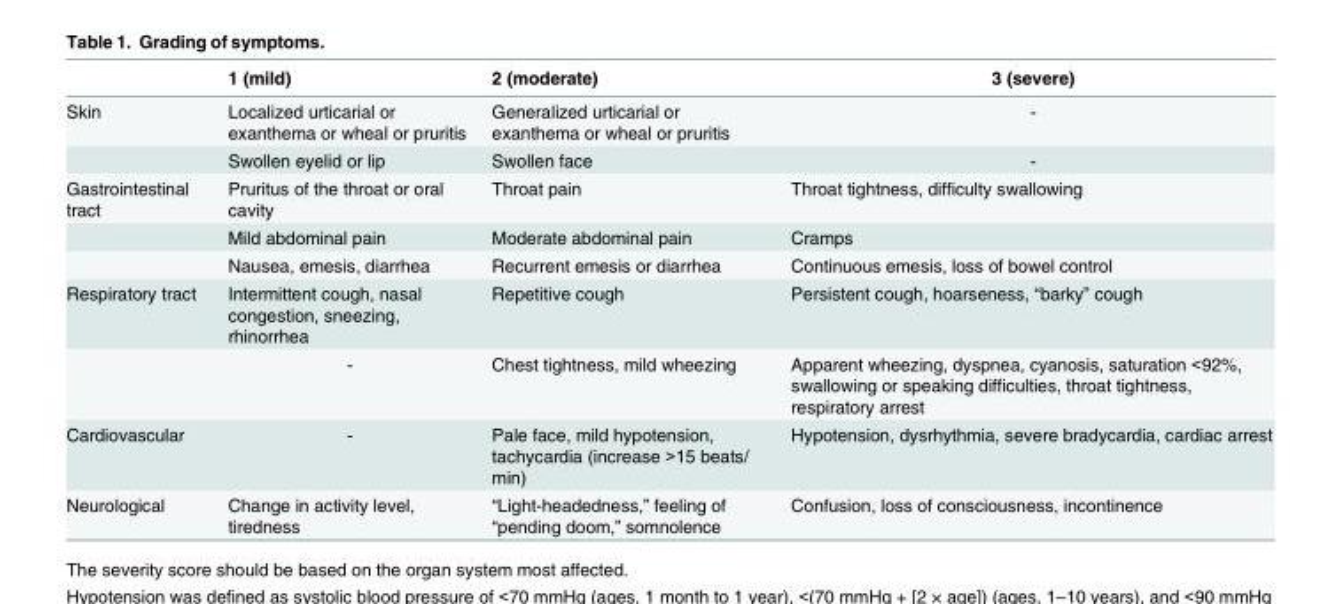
<table><thead><tr><td></td><td>1 (mild)</td><td>2 (moderate)</td><td>3 (severe)</td></tr></thead><tbody><tr><td rowspan="2">Skin</td><td>Localized urticarial or exanthema or wheal or pruritis</td><td>Generalized urticarial or exanthema or wheal or pruritis</td><td>-</td></tr><tr><td>Swollen eyelid or lip</td><td>Swollen face</td><td>-</td></tr><tr><td rowspan="3">Gastrointestinal tract</td><td>Pruritus of the throat or oral cavity</td><td>Throat pain</td><td>Throat tightness, difficulty swallowing</td></tr><tr><td>Mild abdominal pain</td><td>Moderate abdominal pain</td><td>Cramps</td></tr><tr><td>Nausea, emesis, diarrhea</td><td>Recurrent emesis or diarrhea</td><td>Continuous emesis, loss of bowel control</td></tr><tr><td rowspan="2">Respiratory tract</td><td>Intermittent cough, nasal congestion, sneezing, rhinorrhea</td><td>Repetitive cough</td><td>Persistent cough, hoarseness, “barky” cough</td></tr><tr><td>-</td><td>Chest tightness, mild wheezing</td><td>Apparent wheezing, dyspnea, cyanosis, saturation &lt;92%, swallowing or speaking difficulties, throat tightness, respiratory arrest</td></tr><tr><td>Cardiovascular</td><td>-</td><td>Pale face, mild hypotension, tachycardia (increase &gt;15 beats/ min)</td><td>Hypotension, dysrhythmia, severe bradycardia, cardiac arrest</td></tr><tr><td>Neurological</td><td>Change in activity level, tiredness</td><td>“Light-headedness,” feeling of “pending doom,” somnolence</td><td>Confusion, loss of consciousness, incontinence</td></tr></tbody></table>